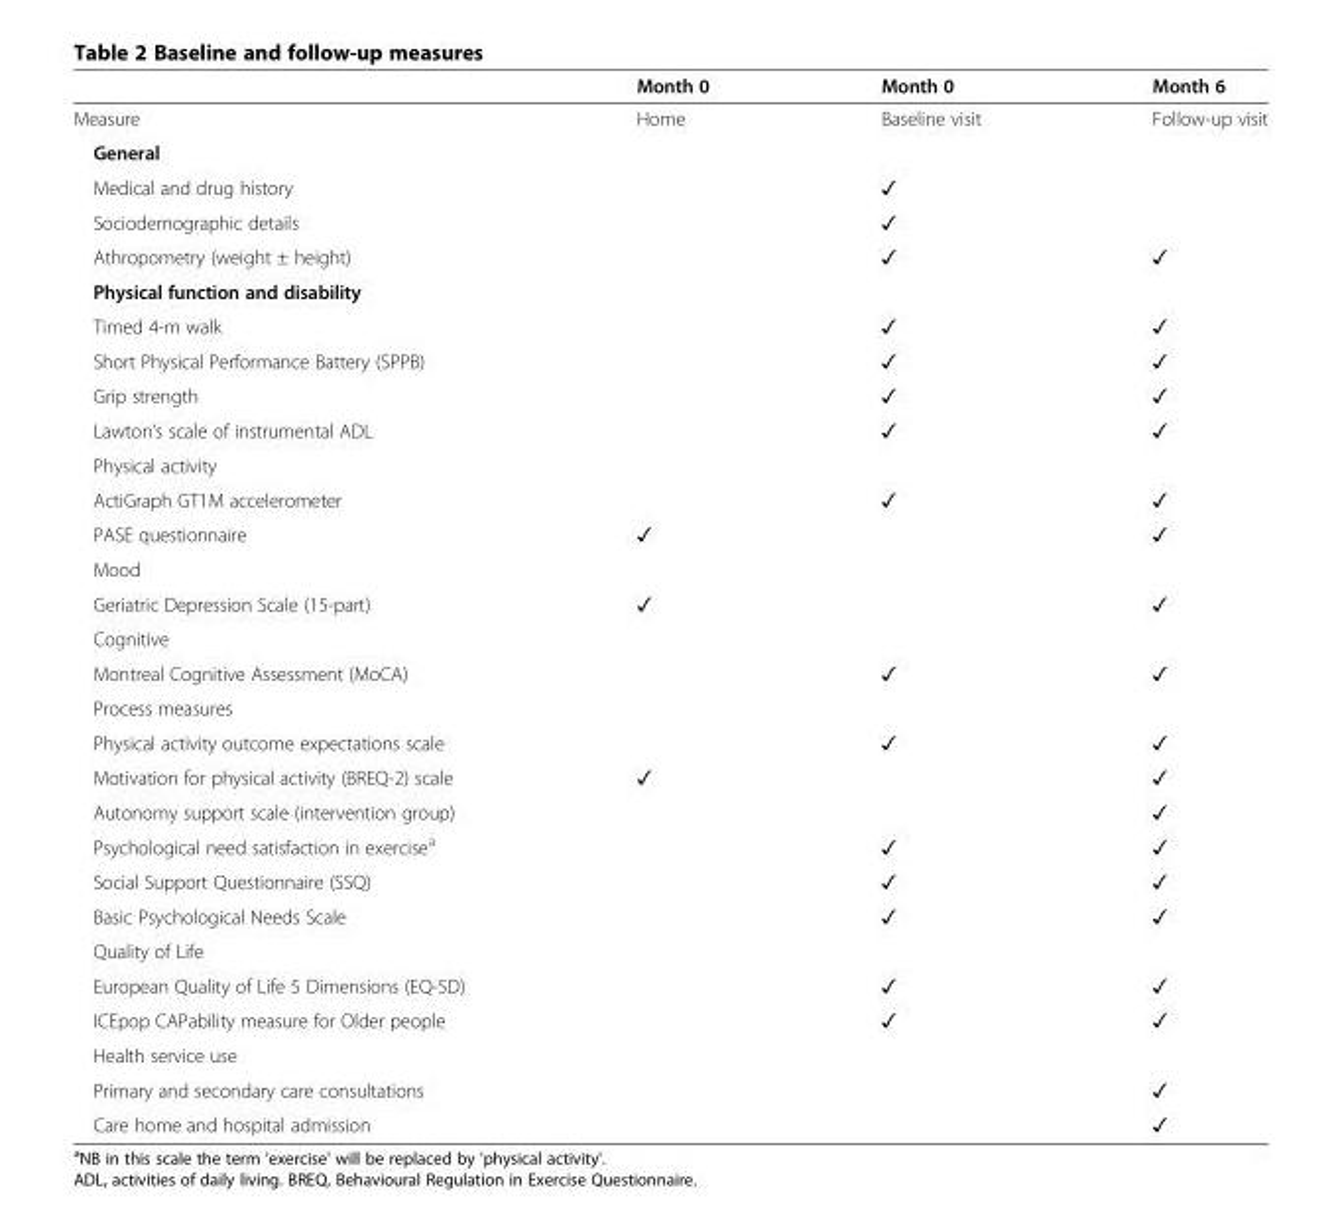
<table><thead><tr><td></td><td>Month 0</td><td>Month 0</td><td>Month 6</td></tr></thead><tbody><tr><td>Measure</td><td>Home</td><td>Baseline visit</td><td>Follow-up visit</td></tr><tr><td colspan="4">General</td></tr><tr><td>Medical and drug history</td><td></td><td>✓</td><td></td></tr><tr><td>Sociodemographic details</td><td></td><td>✓</td><td></td></tr><tr><td>Athropometry (weight ± height)</td><td></td><td>✓</td><td>✓</td></tr><tr><td colspan="4">Physical function and disability</td></tr><tr><td>Timed 4-m walk</td><td></td><td>✓</td><td>✓</td></tr><tr><td>Short Physical Performance Battery (SPPB)</td><td></td><td>✓</td><td>✓</td></tr><tr><td>Grip strength</td><td></td><td>✓</td><td>✓</td></tr><tr><td>Lawton’s scale of instrumental ADL</td><td></td><td>✓</td><td>✓</td></tr><tr><td colspan="4">Physical activity</td></tr><tr><td>ActiGraph GT1M accelerometer</td><td></td><td>✓</td><td>✓</td></tr><tr><td>PASE questionnaire</td><td>✓</td><td></td><td>✓</td></tr><tr><td colspan="4">Mood</td></tr><tr><td>Geriatric Depression Scale (15-part)</td><td>✓</td><td></td><td>✓</td></tr><tr><td colspan="4">Cognitive</td></tr><tr><td>Montreal Cognitive Assessment (MoCA)</td><td></td><td>✓</td><td>✓</td></tr><tr><td colspan="4">Process measures</td></tr><tr><td>Physical activity outcome expectations scale</td><td></td><td>✓</td><td>✓</td></tr><tr><td>Motivation for physical activity (BREQ-2) scale</td><td>✓</td><td></td><td>✓</td></tr><tr><td>Autonomy support scale (intervention group)</td><td></td><td></td><td>✓</td></tr><tr><td>Psychological need satisfaction in exercise<sup>a</sup></td><td></td><td>✓</td><td>✓</td></tr><tr><td>Social Support Questionnaire (SSQ)</td><td></td><td>✓</td><td>✓</td></tr><tr><td>Basic Psychological Needs Scale</td><td></td><td>✓</td><td>✓</td></tr><tr><td colspan="4">Quality of Life</td></tr><tr><td>European Quality of Life 5 Dimensions (EQ-5D)</td><td></td><td>✓</td><td>✓</td></tr><tr><td>ICEpop CAPability measure for Older people</td><td></td><td>✓</td><td>✓</td></tr><tr><td colspan="4">Health service use</td></tr><tr><td>Primary and secondary care consultations</td><td></td><td></td><td>✓</td></tr><tr><td>Care home and hospital admission</td><td></td><td></td><td>✓</td></tr></tbody></table>